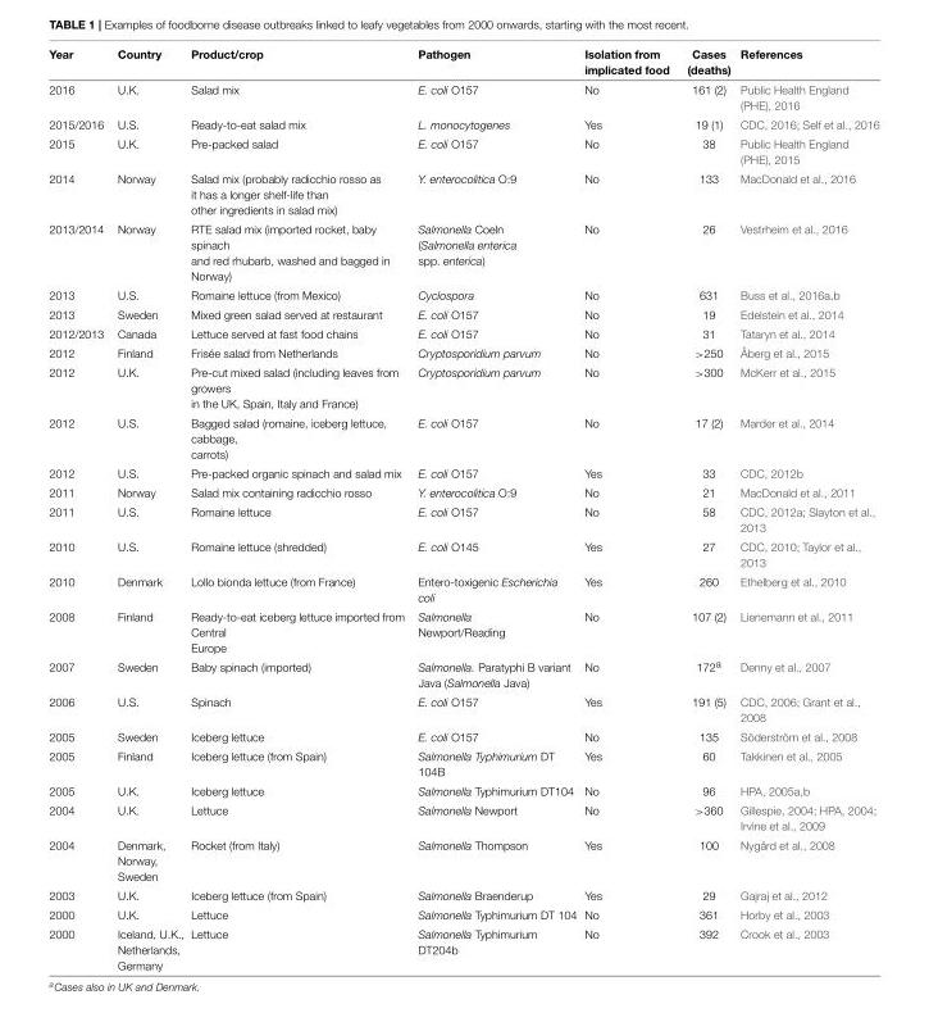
<table><thead><tr><td>Year</td><td>Country</td><td>Product/crop</td><td>Pathogen</td><td>Isolation from implicated food</td><td>Cases (deaths)</td><td>References</td></tr></thead><tbody><tr><td>2016</td><td>U.K.</td><td>Salad mix</td><td>E. coli O157</td><td>No</td><td>161 (2)</td><td>Public Health England (PHE), 2016</td></tr><tr><td>2015/2016</td><td>U.S.</td><td>Ready-to-eat salad mix</td><td>L. monocytogenes</td><td>Yes</td><td>19 (1)</td><td>CDC, 2016; Self et al., 2016</td></tr><tr><td>2015</td><td>U.K.</td><td>Pre-packed salad</td><td>E. coli O157</td><td>No</td><td>38</td><td>Public Health England (PHE), 2015</td></tr><tr><td>2014</td><td>Norway</td><td>Salad mix (probably radicchio rosso as it has a longer shelf-life than other ingredients in salad mix)</td><td>Y. enterocolitica O:9</td><td>No</td><td>133</td><td>MacDonald et al., 2016</td></tr><tr><td>2013/2014</td><td>Norway</td><td>RTE salad mix (imported rocket, baby spinach and red rhubarb, washed and bagged in Norway)</td><td>Salmonella Coeln (Salmonella enterica spp. enterica)</td><td>No</td><td>26</td><td>Vestrheim et al., 2016</td></tr><tr><td>2013</td><td>U.S.</td><td>Romaine lettuce (from Mexico)</td><td>Cyclospora</td><td>No</td><td>631</td><td>Buss et al., 2016a,b</td></tr><tr><td>2013</td><td>Sweden</td><td>Mixed green salad served at restaurant</td><td>E. coli O157</td><td>No</td><td>19</td><td>Edelstein et al., 2014</td></tr><tr><td>2012/2013</td><td>Canada</td><td>Lettuce served at fast food chains</td><td>E. coli O157</td><td>No</td><td>31</td><td>Tataryn et al., 2014</td></tr><tr><td>2012</td><td>Finland</td><td>Frisée salad from Netherlands</td><td>Cryptosporidium parvum</td><td>No</td><td>&gt;250</td><td>Åberg et al., 2015</td></tr><tr><td>2012</td><td>U.K.</td><td>Pre-cut mixed salad (including leaves from growers in the UK, Spain, Italy and France)</td><td>Cryptosporidium parvum</td><td>No</td><td>&gt;300</td><td>McKerr et al., 2015</td></tr><tr><td>2012</td><td>U.S.</td><td>Bagged salad (romaine, iceberg lettuce, cabbage, carrots)</td><td>E. coli O157</td><td>No</td><td>17 (2)</td><td>Marder et al., 2014</td></tr><tr><td>2012</td><td>U.S.</td><td>Pre-packed organic spinach and salad mix</td><td>E. coli O157</td><td>Yes</td><td>33</td><td>CDC, 2012b</td></tr><tr><td>2011</td><td>Norway</td><td>Salad mix containing radicchio rosso</td><td>Y. enterocolitica O:9</td><td>No</td><td>21</td><td>MacDonald et al., 2011</td></tr><tr><td>2011</td><td>U.S.</td><td>Romaine lettuce</td><td>E. coli O157</td><td>No</td><td>58</td><td>CDC, 2012a; Slayton et al., 2013</td></tr><tr><td>2010</td><td>U.S.</td><td>Romaine lettuce (shredded)</td><td>E. coli O145</td><td>Yes</td><td>27</td><td>CDC, 2010; Taylor et al., 2013</td></tr><tr><td>2010</td><td>Denmark</td><td>Lollo bionda lettuce (from France)</td><td>Entero-toxigenic Escherichia coli</td><td>Yes</td><td>260</td><td>Ethelberg et al., 2010</td></tr><tr><td>2008</td><td>Finland</td><td>Ready-to-eat iceberg lettuce imported from Central Europe</td><td>Salmonella Newport/Reading</td><td>No</td><td>107 (2)</td><td>Lienemann et al., 2011</td></tr><tr><td>2007</td><td>Sweden</td><td>Baby spinach (imported)</td><td>Salmonella. Paratyphi B variant Java (Salmonella Java)</td><td>No</td><td>172<sup>a</sup></td><td>Denny et al., 2007</td></tr><tr><td>2006</td><td>U.S.</td><td>Spinach</td><td>E. coli O157</td><td>Yes</td><td>191 (5)</td><td>CDC, 2006; Grant et al., 2008</td></tr><tr><td>2005</td><td>Sweden</td><td>Iceberg lettuce</td><td>E. coli O157</td><td>No</td><td>135</td><td>Söderström et al., 2008</td></tr><tr><td>2005</td><td>Finland</td><td>Iceberg lettuce (from Spain)</td><td>Salmonella Typhimurium DT 104B</td><td>Yes</td><td>60</td><td>Takkinen et al., 2005</td></tr><tr><td>2005</td><td>U.K.</td><td>Iceberg lettuce</td><td>Salmonella Typhimurium DT104</td><td>No</td><td>96</td><td>HPA, 2005a,b</td></tr><tr><td>2004</td><td>U.K.</td><td>Lettuce</td><td>Salmonella Newport</td><td>No</td><td>&gt;360</td><td>Gillespie, 2004; HPA, 2004; Irvine et al., 2009</td></tr><tr><td>2004</td><td>Denmark, Norway, Sweden</td><td>Rocket (from Italy)</td><td>Salmonella Thompson</td><td>Yes</td><td>100</td><td>Nygård et al., 2008</td></tr><tr><td>2003</td><td>U.K.</td><td>Iceberg lettuce (from Spain)</td><td>Salmonella Braenderup</td><td>Yes</td><td>29</td><td>Gajraj et al., 2012</td></tr><tr><td>2000</td><td>U.K.</td><td>Lettuce</td><td>Salmonella Typhimurium DT 104</td><td>No</td><td>361</td><td>Horby et al., 2003</td></tr><tr><td>2000</td><td>Iceland, U.K., Netherlands, Germany</td><td>Lettuce</td><td>Salmonella Typhimurium DT204b</td><td>No</td><td>392</td><td>Crook et al., 2003</td></tr></tbody></table>